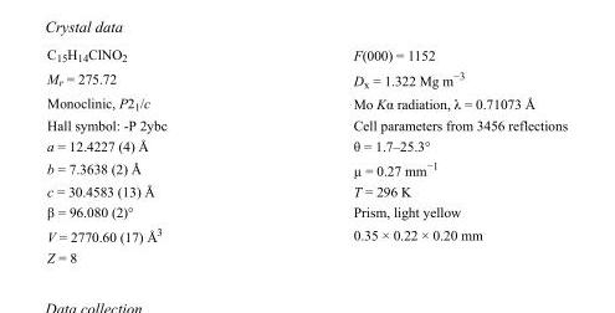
<table><tbody><tr><td>C<sub>15</sub>H<sub>14</sub>ClNO<sub>2</sub></td><td>F(000) = 1152</td></tr><tr><td>M<sub>r</sub> = 275.72</td><td>D<sub>x</sub> = 1.322 Mg m<sup>−3</sup></td></tr><tr><td>Monoclinic, P2<sub>1</sub>/c</td><td>Mo Kα radiation, λ = 0.71073 Å</td></tr><tr><td>Hall symbol: -P 2ybc</td><td>Cell parameters from 3456 reflections</td></tr><tr><td>a = 12.4227 (4) Å</td><td>θ = 1.7–25.3°</td></tr><tr><td>b = 7.3638 (2) Å</td><td>µ = 0.27 mm<sup>−1</sup></td></tr><tr><td>c = 30.4583 (13) Å</td><td>T = 296 K</td></tr><tr><td>β = 96.080 (2)°</td><td>Prism, light yellow</td></tr><tr><td>V = 2770.60 (17) Å<sup>3</sup></td><td>0.35 × 0.22 × 0.20 mm</td></tr><tr><td>Z = 8</td><td></td></tr></tbody></table>